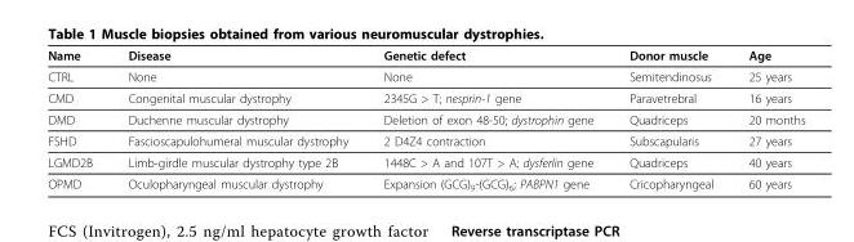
<table><thead><tr><td>Name</td><td>Disease</td><td>Genetic defect</td><td>Donor muscle</td><td>Age</td></tr></thead><tbody><tr><td>CTRL</td><td>None</td><td>None</td><td>Semitendinosus</td><td>25 years</td></tr><tr><td>CMD</td><td>Congenital muscular dystrophy</td><td>2345G &gt; T; nesprin-1 gene</td><td>Paravetrebral</td><td>16 years</td></tr><tr><td>DMD</td><td>Duchenne muscular dystrophy</td><td>Deletion of exon 48-50; dystrophin gene</td><td>Quadriceps</td><td>20 months</td></tr><tr><td>FSHD</td><td>Fascioscapulohumeral muscular dystrophy</td><td>2 D4Z4 contraction</td><td>Subscapularis</td><td>27 years</td></tr><tr><td>LGMD2B</td><td>Limb-girdle muscular dystrophy type 2B</td><td>1448C &gt; A and 107T &gt; A; dysferlin gene</td><td>Quadriceps</td><td>40 years</td></tr><tr><td>OPMD</td><td>Oculopharyngeal muscular dystrophy</td><td>Expansion (GCG)<sub>9</sub>-(GCG)<sub>6</sub>; PABPN1 gene</td><td>Cricopharyngeal</td><td>60 years</td></tr></tbody></table>